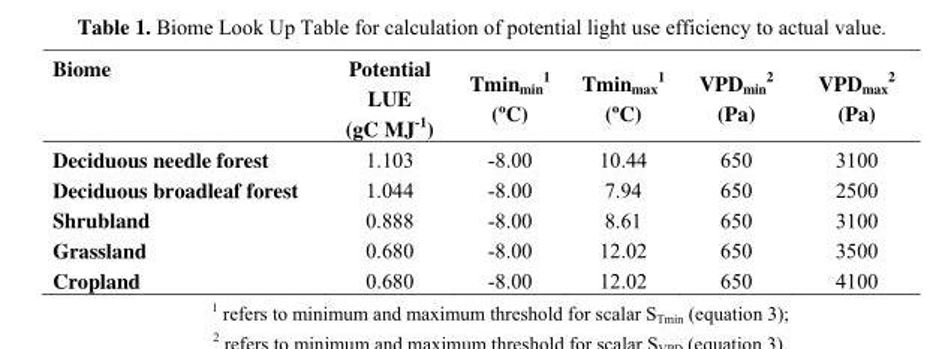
<table><thead><tr><td>Biome</td><td>Potential LUE (gC MJ<sup>-1</sup>)</td><td>Tminmin 1 (ºC)</td><td>Tminmax 1 (ºC)</td><td>VPD<sub>min</sub> <sup>2</sup> (Pa)</td><td>VPD<sub>max</sub> <sup>2</sup> (Pa)</td></tr></thead><tbody><tr><td>Deciduous needle forest</td><td>1.103</td><td>-8.00</td><td>10.44</td><td>650</td><td>3100</td></tr><tr><td>Deciduous broadleaf forest</td><td>1.044</td><td>-8.00</td><td>7.94</td><td>650</td><td>2500</td></tr><tr><td>Shrubland</td><td>0.888</td><td>-8.00</td><td>8.61</td><td>650</td><td>3100</td></tr><tr><td>Grassland</td><td>0.680</td><td>-8.00</td><td>12.02</td><td>650</td><td>3500</td></tr><tr><td>Cropland</td><td>0.680</td><td>-8.00</td><td>12.02</td><td>650</td><td>4100</td></tr></tbody></table>